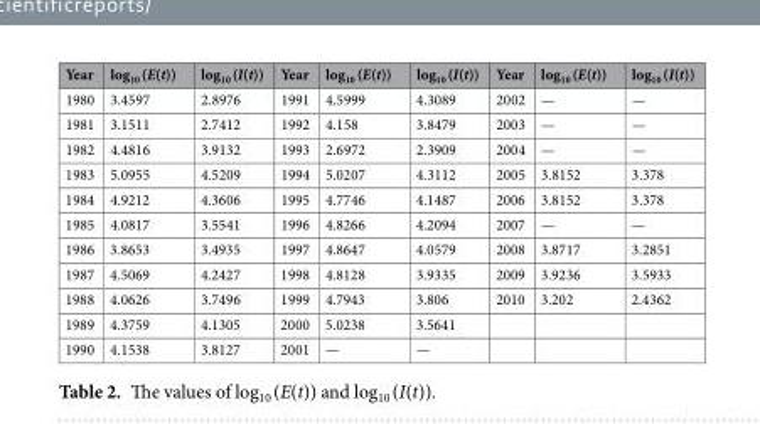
<table><thead><tr><td>Year</td><td>log<sub>10</sub> (E(t))</td><td>log<sub>10</sub> (I(t))</td><td>Year</td><td>log<sub>10</sub> (E(t))</td><td>log<sub>10</sub> (I(t))</td><td>Year</td><td>log<sub>10</sub> (E(t))</td><td>log<sub>10</sub> (I(t))</td></tr></thead><tbody><tr><td>1980</td><td>3.4597</td><td>2.8976</td><td>1991</td><td>4.5999</td><td>4.3089</td><td>2002</td><td>—</td><td>—</td></tr><tr><td>1981</td><td>3.1511</td><td>2.7412</td><td>1992</td><td>4.158</td><td>3.8479</td><td>2003</td><td>—</td><td>—</td></tr><tr><td>1982</td><td>4.4816</td><td>3.9132</td><td>1993</td><td>2.6972</td><td>2.3909</td><td>2004</td><td>—</td><td>—</td></tr><tr><td>1983</td><td>5.0955</td><td>4.5209</td><td>1994</td><td>5.0207</td><td>4.3112</td><td>2005</td><td>3.8152</td><td>3.378</td></tr><tr><td>1984</td><td>4.9212</td><td>4.3606</td><td>1995</td><td>4.7746</td><td>4.1487</td><td>2006</td><td>3.8152</td><td>3.378</td></tr><tr><td>1985</td><td>4.0817</td><td>3.5541</td><td>1996</td><td>4.8266</td><td>4.2094</td><td>2007</td><td>—</td><td>—</td></tr><tr><td>1986</td><td>3.8653</td><td>3.4935</td><td>1997</td><td>4.8647</td><td>4.0579</td><td>2008</td><td>3.8717</td><td>3.2851</td></tr><tr><td>1987</td><td>4.5069</td><td>4.2427</td><td>1998</td><td>4.8128</td><td>3.9335</td><td>2009</td><td>3.9236</td><td>3.5933</td></tr><tr><td>1988</td><td>4.0626</td><td>3.7496</td><td>1999</td><td>4.7943</td><td>3.806</td><td>2010</td><td>3.202</td><td>2.4362</td></tr><tr><td>1989</td><td>4.3759</td><td>4.1305</td><td>2000</td><td>5.0238</td><td>3.5641</td><td></td><td></td><td></td></tr><tr><td>1990</td><td>4.1538</td><td>3.8127</td><td>2001</td><td>—</td><td>—</td><td></td><td></td><td></td></tr></tbody></table>